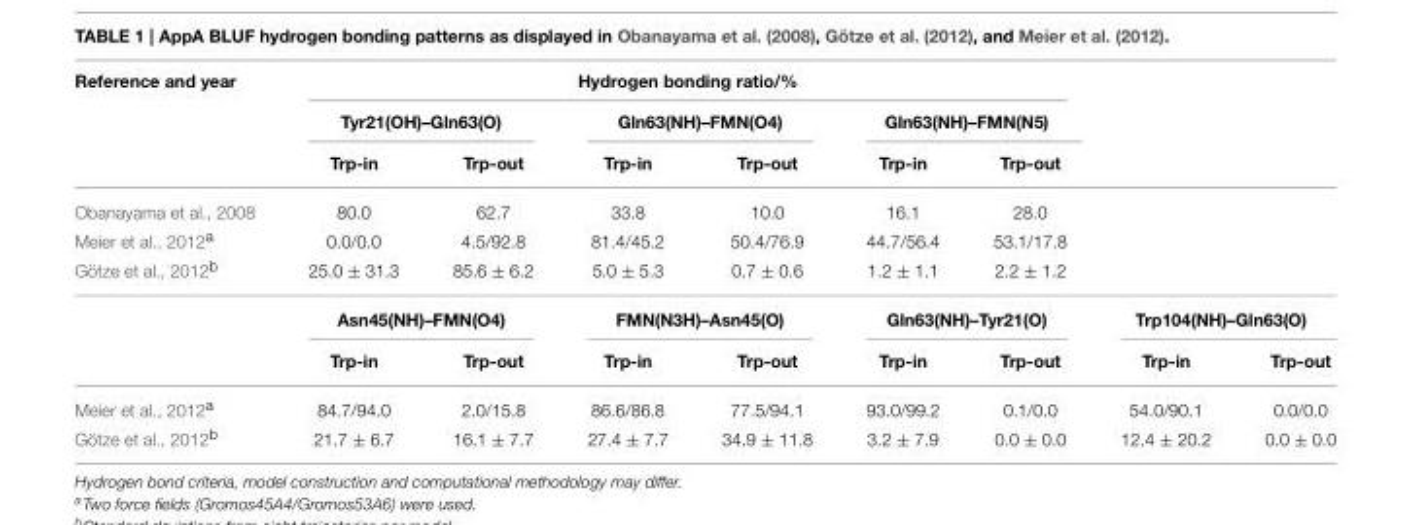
<table><thead><tr><td rowspan="3">Reference and year</td><td colspan="6">Hydrogen bonding ratio/%</td><td rowspan="3"></td><td rowspan="3"></td></tr><tr><td colspan="2">Tyr21(OH)–Gln63(O)</td><td colspan="2">Gln63(NH)–FMN(O4)</td><td colspan="2">Gln63(NH)–FMN(N5)</td></tr><tr><td>Trp-in</td><td>Trp-out</td><td>Trp-in</td><td>Trp-out</td><td>Trp-in</td><td>Trp-out</td></tr></thead><tbody><tr><td>Obanayama et al., 2008</td><td>80.0</td><td>62.7</td><td>33.8</td><td>10.0</td><td>16.1</td><td>28.0</td><td></td><td></td></tr><tr><td>Meier et al., 2012<sup>a</sup></td><td>0.0/0.0</td><td>4.5/92.8</td><td>81.4/45.2</td><td>50.4/76.9</td><td>44.7/56.4</td><td>53.1/17.8</td><td></td><td></td></tr><tr><td rowspan="3">Götze et al., 2012<sup>b</sup></td><td>25.0 ± 31.3</td><td>85.6 ± 6.2</td><td>5.0 ± 5.3</td><td>0.7 ± 0.6</td><td>1.2 ± 1.1</td><td>2.2 ± 1.2</td><td></td><td></td></tr><tr><td colspan="2">Asn45(NH)–FMN(O4)</td><td colspan="2">FMN(N3H)–Asn45(O)</td><td colspan="2">Gln63(NH)–Tyr21(O)</td><td colspan="2">Trp104(NH)–Gln63(O)</td></tr><tr><td>Trp-in</td><td>Trp-out</td><td>Trp-in</td><td>Trp-out</td><td>Trp-in</td><td>Trp-out</td><td>Trp-in</td><td>Trp-out</td></tr><tr><td>Meier et al., 2012<sup>a</sup></td><td>84.7/94.0</td><td>2.0/15.8</td><td>86.6/86.8</td><td>77.5/94.1</td><td>93.0/99.2</td><td>0.1/0.0</td><td>54.0/90.1</td><td>0.0/0.0</td></tr><tr><td>Götze et al., 2012<sup>b</sup></td><td>21.7 ± 6.7</td><td>16.1 ± 7.7</td><td>27.4 ± 7.7</td><td>34.9 ± 11.8</td><td>3.2 ± 7.9</td><td>0.0 ± 0.0</td><td>12.4 ± 20.2</td><td>0.0 ± 0.0</td></tr></tbody></table>